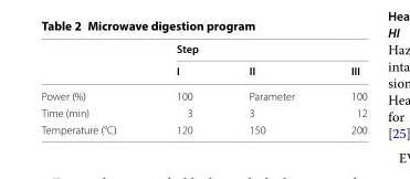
<table><thead><tr><td rowspan="2"></td><td colspan="3">Step</td></tr><tr><td>I</td><td>II</td><td>III</td></tr></thead><tbody><tr><td>Power (%)</td><td>100</td><td>Parameter</td><td>100</td></tr><tr><td>Time (min)</td><td>3</td><td>3</td><td>12</td></tr><tr><td>Temperature (°C)</td><td>120</td><td>150</td><td>200</td></tr></tbody></table>